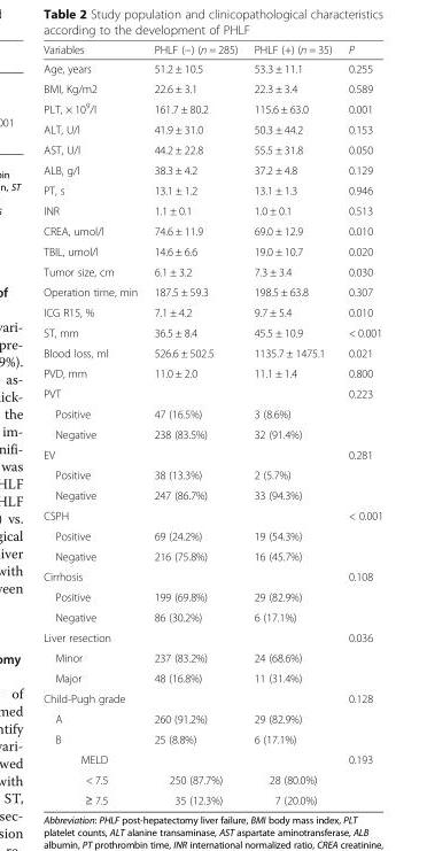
<table><thead><tr><td>Variables</td><td>PHLF (−) (n = 285)</td><td>PHLF (+) (n = 35)</td><td>P</td></tr></thead><tbody><tr><td>Age, years</td><td>51.2 ± 10.5</td><td>53.3 ± 11.1</td><td>0.255</td></tr><tr><td>BMI, Kg/m2</td><td>22.6 ± 3.1</td><td>22.3 ± 3.4</td><td>0.589</td></tr><tr><td>PLT, × 10<sup>9</sup>/l</td><td>161.7 ± 80.2</td><td>115.6 ± 63.0</td><td>0.001</td></tr><tr><td>ALT, U/l</td><td>41.9 ± 31.0</td><td>50.3 ± 44.2</td><td>0.153</td></tr><tr><td>AST, U/l</td><td>44.2 ± 22.8</td><td>55.5 ± 31.8</td><td>0.050</td></tr><tr><td>ALB, g/l</td><td>38.3 ± 4.2</td><td>37.2 ± 4.8</td><td>0.129</td></tr><tr><td>PT, s</td><td>13.1 ± 1.2</td><td>13.1 ± 1.3</td><td>0.946</td></tr><tr><td>INR</td><td>1.1 ± 0.1</td><td>1.0 ± 0.1</td><td>0.513</td></tr><tr><td>CREA, umol/l</td><td>74.6 ± 11.9</td><td>69.0 ± 12.9</td><td>0.010</td></tr><tr><td>TBIL, umol/l</td><td>14.6 ± 6.6</td><td>19.0 ± 10.7</td><td>0.020</td></tr><tr><td>Tumor size, cm</td><td>6.1 ± 3.2</td><td>7.3 ± 3.4</td><td>0.030</td></tr><tr><td>Operation time, min</td><td>187.5 ± 59.3</td><td>198.5 ± 63.8</td><td>0.307</td></tr><tr><td>ICG R15, %</td><td>7.1 ± 4.2</td><td>9.7 ± 5.4</td><td>0.010</td></tr><tr><td>ST, mm</td><td>36.5 ± 8.4</td><td>45.5 ± 10.9</td><td>&lt; 0.001</td></tr><tr><td>Blood loss, ml</td><td>526.6 ± 502.5</td><td>1135.7 ± 1475.1</td><td>0.021</td></tr><tr><td>PVD, mm</td><td>11.0 ± 2.0</td><td>11.1 ± 1.4</td><td>0.800</td></tr><tr><td>PVT</td><td></td><td></td><td>0.223</td></tr><tr><td>Positive</td><td>47 (16.5%)</td><td>3 (8.6%)</td><td></td></tr><tr><td>Negative</td><td>238 (83.5%)</td><td>32 (91.4%)</td><td></td></tr><tr><td>EV</td><td></td><td></td><td>0.281</td></tr><tr><td>Positive</td><td>38 (13.3%)</td><td>2 (5.7%)</td><td></td></tr><tr><td>Negative</td><td>247 (86.7%)</td><td>33 (94.3%)</td><td></td></tr><tr><td>CSPH</td><td></td><td></td><td>&lt; 0.001</td></tr><tr><td>Positive</td><td>69 (24.2%)</td><td>19 (54.3%)</td><td></td></tr><tr><td>Negative</td><td>216 (75.8%)</td><td>16 (45.7%)</td><td></td></tr><tr><td>Cirrhosis</td><td></td><td></td><td>0.108</td></tr><tr><td>Positive</td><td>199 (69.8%)</td><td>29 (82.9%)</td><td></td></tr><tr><td>Negative</td><td>86 (30.2%)</td><td>6 (17.1%)</td><td></td></tr><tr><td>Liver resection</td><td></td><td></td><td>0.036</td></tr><tr><td>Minor</td><td>237 (83.2%)</td><td>24 (68.6%)</td><td></td></tr><tr><td>Major</td><td>48 (16.8%)</td><td>11 (31.4%)</td><td></td></tr><tr><td>Child-Pugh grade</td><td></td><td></td><td>0.128</td></tr><tr><td>A</td><td>260 (91.2%)</td><td>29 (82.9%)</td><td></td></tr><tr><td>B</td><td>25 (8.8%)</td><td>6 (17.1%)</td><td></td></tr><tr><td>MELD</td><td></td><td></td><td>0.193</td></tr><tr><td>&lt; 7.5</td><td>250 (87.7%)</td><td>28 (80.0%)</td><td></td></tr><tr><td>≥ 7.5</td><td>35 (12.3%)</td><td>7 (20.0%)</td><td></td></tr></tbody></table>